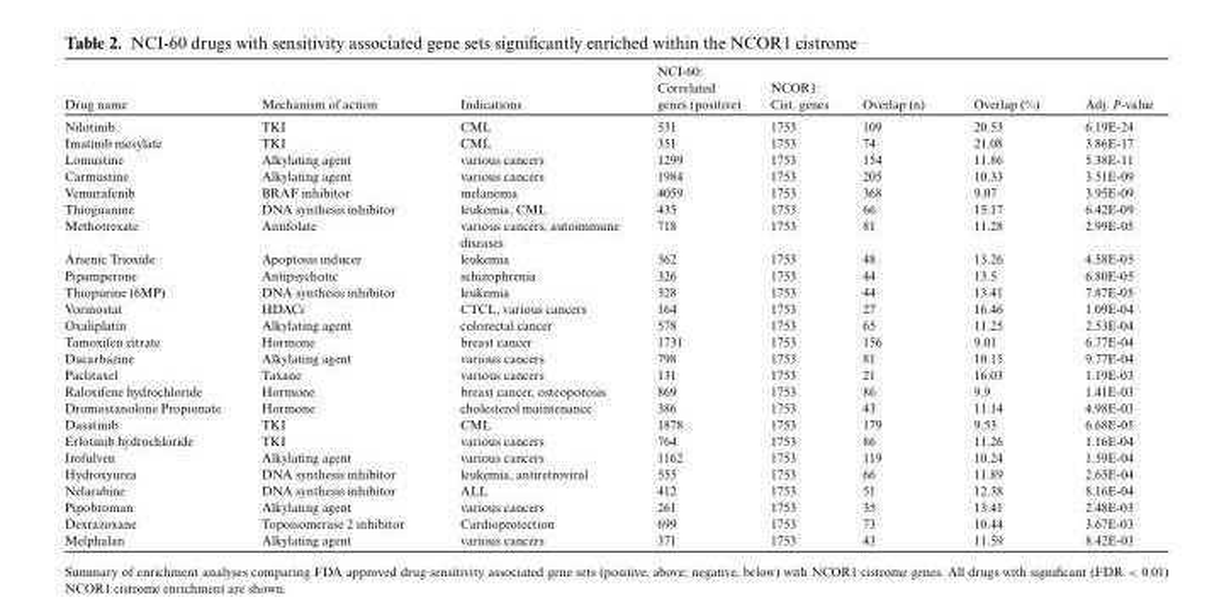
<table><thead><tr><td>Drug name</td><td>Mechanism of action</td><td>Indications</td><td>NCI-60: Correlated genes (positive)</td><td>NCOR1: Cist. genes</td><td>Overlap (n)</td><td>Overlap (%)</td><td>Adj. P-value</td></tr></thead><tbody><tr><td>Nilotinib</td><td>TKI</td><td>CML</td><td>531</td><td>1753</td><td>109</td><td>20.53</td><td>6.19E-24</td></tr><tr><td>Imatinib mesylate</td><td>TKI</td><td>CML</td><td>351</td><td>1753</td><td>74</td><td>21.08</td><td>3.86E-17</td></tr><tr><td>Lomustine</td><td>Alkylating agent</td><td>various cancers</td><td>1299</td><td>1753</td><td>154</td><td>11.86</td><td>5.38E-11</td></tr><tr><td>Carmustine</td><td>Alkylating agent</td><td>various cancers</td><td>1984</td><td>1753</td><td>205</td><td>10.33</td><td>3.51E-09</td></tr><tr><td>Vemurafenib</td><td>BRAF inhibitor</td><td>melanoma</td><td>4059</td><td>1753</td><td>368</td><td>9.07</td><td>3.95E-09</td></tr><tr><td>Thioguanine</td><td>DNA synthesis inhibitor</td><td>leukemia, CML</td><td>435</td><td>1753</td><td>66</td><td>15.17</td><td>6.42E-09</td></tr><tr><td>Methotrexate</td><td>Antifolate</td><td>various cancers, autoimmune diseases</td><td>718</td><td>1753</td><td>81</td><td>11.28</td><td>2.99E-05</td></tr><tr><td>Arsenic Trioxide</td><td>Apoptosis inducer</td><td>leukemia</td><td>362</td><td>1753</td><td>48</td><td>13.26</td><td>4.58E-05</td></tr><tr><td>Pipamperone</td><td>Antipsychotic</td><td>schizophrenia</td><td>326</td><td>1753</td><td>44</td><td>13.5</td><td>6.80E-05</td></tr><tr><td>Thiopurine (6MP)</td><td>DNA synthesis inhibitor</td><td>leukemia</td><td>328</td><td>1753</td><td>44</td><td>13.41</td><td>7.87E-05</td></tr><tr><td>Vorinostat</td><td>HDACi</td><td>CTCL, various cancers</td><td>164</td><td>1753</td><td>27</td><td>16.46</td><td>1.09E-04</td></tr><tr><td>Oxaliplatin</td><td>Alkylating agent</td><td>colorectal cancer</td><td>578</td><td>1753</td><td>65</td><td>11.25</td><td>2.53E-04</td></tr><tr><td>Tamoxifen citrate</td><td>Hormone</td><td>breast cancer</td><td>1731</td><td>1753</td><td>156</td><td>9.01</td><td>6.77E-04</td></tr><tr><td>Dacarbazine</td><td>Alkylating agent</td><td>various cancers</td><td>798</td><td>1753</td><td>81</td><td>10.15</td><td>9.77E-04</td></tr><tr><td>Paclitaxel</td><td>Taxane</td><td>various cancers</td><td>131</td><td>1753</td><td>21</td><td>16.03</td><td>1.19E-03</td></tr><tr><td>Raloxifene hydrochloride</td><td>Hormone</td><td>breast cancer, osteoporosis</td><td>869</td><td>1753</td><td>86</td><td>9.9</td><td>1.41E-03</td></tr><tr><td>Dromostanolone Propionate</td><td>Hormone</td><td>cholesterol maintenance</td><td>386</td><td>1753</td><td>43</td><td>11.14</td><td>4.98E-03</td></tr><tr><td>Dasatinib</td><td>TKI</td><td>CML</td><td>1878</td><td>1753</td><td>179</td><td>9.53</td><td>6.68E-05</td></tr><tr><td>Erlotinib hydrochloride</td><td>TKI</td><td>various cancers</td><td>764</td><td>1753</td><td>86</td><td>11.26</td><td>1.16E-04</td></tr><tr><td>Irofulven</td><td>Alkylating agent</td><td>various cancers</td><td>1162</td><td>1753</td><td>119</td><td>10.24</td><td>1.59E-04</td></tr><tr><td>Hydroxyurea</td><td>DNA synthesis inhibitor</td><td>leukemia, antiretroviral</td><td>555</td><td>1753</td><td>66</td><td>11.89</td><td>2.65E-04</td></tr><tr><td>Nelarabine</td><td>DNA synthesis inhibitor</td><td>ALL</td><td>412</td><td>1753</td><td>51</td><td>12.38</td><td>8.16E-04</td></tr><tr><td>Pipobroman</td><td>Alkylating agent</td><td>various cancers</td><td>261</td><td>1753</td><td>35</td><td>13.41</td><td>2.48E-03</td></tr><tr><td>Dexrazoxane</td><td>Topoisomerase 2 inhibitor</td><td>Cardioprotection</td><td>699</td><td>1753</td><td>73</td><td>10.44</td><td>3.67E-03</td></tr><tr><td>Melphalan</td><td>Alkylating agent</td><td>various cancers</td><td>371</td><td>1753</td><td>43</td><td>11.59</td><td>8.42E-03</td></tr></tbody></table>